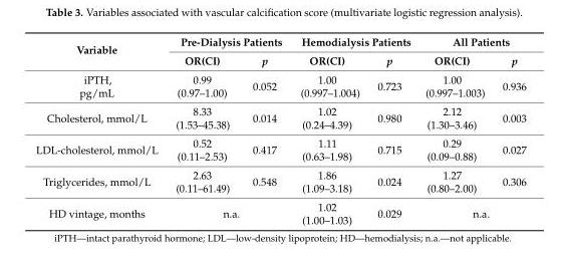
<table><thead><tr><td rowspan="2">Variable</td><td colspan="2">Pre-Dialysis Patients</td><td colspan="2">Hemodialysis Patients</td><td colspan="2">All Patients</td></tr><tr><td>OR(CI)</td><td>p</td><td>OR(CI)</td><td>p</td><td>OR(CI)</td><td>p</td></tr></thead><tbody><tr><td>iPTH, pg/mL</td><td>0.99 (0.97–1.00)</td><td>0.052</td><td>1.00 (0.997–1.004)</td><td>0.723</td><td>1.00 (0.997–1.003)</td><td>0.936</td></tr><tr><td>Cholesterol, mmol/L</td><td>8.33 (1.53–45.38)</td><td>0.014</td><td>1.02 (0.24–4.39)</td><td>0.980</td><td>2.12 (1.30–3.46)</td><td>0.003</td></tr><tr><td>LDL-cholesterol, mmol/L</td><td>0.52 (0.11–2.53)</td><td>0.417</td><td>1.11 (0.63–1.98)</td><td>0.715</td><td>0.29 (0.09–0.88)</td><td>0.027</td></tr><tr><td>Triglycerides, mmol/L</td><td>2.63 (0.11–61.49)</td><td>0.548</td><td>1.86 (1.09–3.18)</td><td>0.024</td><td>1.27 (0.80–2.00)</td><td>0.306</td></tr><tr><td>HD vintage, months</td><td colspan="2">n.a.</td><td>1.02 (1.00–1.03)</td><td>0.029</td><td colspan="2">n.a.</td></tr></tbody></table>